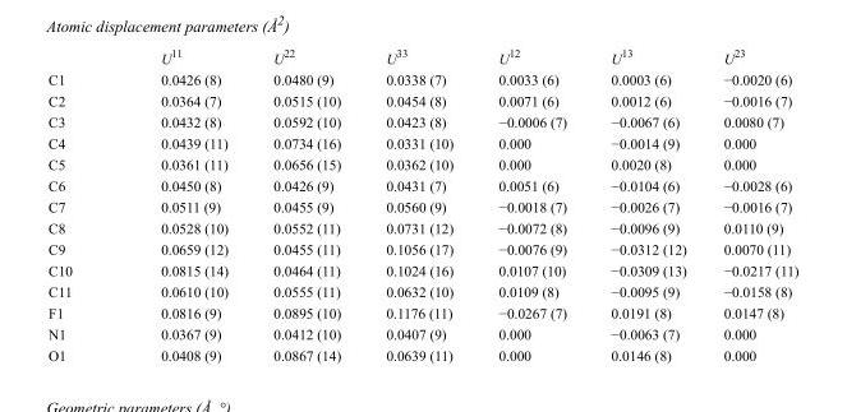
<table><thead><tr><td></td><td>U<sup>11</sup></td><td>U<sup>22</sup></td><td>U<sup>33</sup></td><td>U<sup>12</sup></td><td>U<sup>13</sup></td><td>U<sup>23</sup></td></tr></thead><tbody><tr><td>C1</td><td>0.0426 (8)</td><td>0.0480 (9)</td><td>0.0338 (7)</td><td>0.0033 (6)</td><td>0.0003 (6)</td><td>−0.0020 (6)</td></tr><tr><td>C2</td><td>0.0364 (7)</td><td>0.0515 (10)</td><td>0.0454 (8)</td><td>0.0071 (6)</td><td>0.0012 (6)</td><td>−0.0016 (7)</td></tr><tr><td>C3</td><td>0.0432 (8)</td><td>0.0592 (10)</td><td>0.0423 (8)</td><td>−0.0006 (7)</td><td>−0.0067 (6)</td><td>0.0080 (7)</td></tr><tr><td>C4</td><td>0.0439 (11)</td><td>0.0734 (16)</td><td>0.0331 (10)</td><td>0.000</td><td>−0.0014 (9)</td><td>0.000</td></tr><tr><td>C5</td><td>0.0361 (11)</td><td>0.0656 (15)</td><td>0.0362 (10)</td><td>0.000</td><td>0.0020 (8)</td><td>0.000</td></tr><tr><td>C6</td><td>0.0450 (8)</td><td>0.0426 (9)</td><td>0.0431 (7)</td><td>0.0051 (6)</td><td>−0.0104 (6)</td><td>−0.0028 (6)</td></tr><tr><td>C7</td><td>0.0511 (9)</td><td>0.0455 (9)</td><td>0.0560 (9)</td><td>−0.0018 (7)</td><td>−0.0026 (7)</td><td>−0.0016 (7)</td></tr><tr><td>C8</td><td>0.0528 (10)</td><td>0.0552 (11)</td><td>0.0731 (12)</td><td>−0.0072 (8)</td><td>−0.0096 (9)</td><td>0.0110 (9)</td></tr><tr><td>C9</td><td>0.0659 (12)</td><td>0.0455 (11)</td><td>0.1056 (17)</td><td>−0.0076 (9)</td><td>−0.0312 (12)</td><td>0.0070 (11)</td></tr><tr><td>C10</td><td>0.0815 (14)</td><td>0.0464 (11)</td><td>0.1024 (16)</td><td>0.0107 (10)</td><td>−0.0309 (13)</td><td>−0.0217 (11)</td></tr><tr><td>C11</td><td>0.0610 (10)</td><td>0.0555 (11)</td><td>0.0632 (10)</td><td>0.0109 (8)</td><td>−0.0095 (9)</td><td>−0.0158 (8)</td></tr><tr><td>F1</td><td>0.0816 (9)</td><td>0.0895 (10)</td><td>0.1176 (11)</td><td>−0.0267 (7)</td><td>0.0191 (8)</td><td>0.0147 (8)</td></tr><tr><td>N1</td><td>0.0367 (9)</td><td>0.0412 (10)</td><td>0.0407 (9)</td><td>0.000</td><td>−0.0063 (7)</td><td>0.000</td></tr><tr><td>O1</td><td>0.0408 (9)</td><td>0.0867 (14)</td><td>0.0639 (11)</td><td>0.000</td><td>0.0146 (8)</td><td>0.000</td></tr></tbody></table>